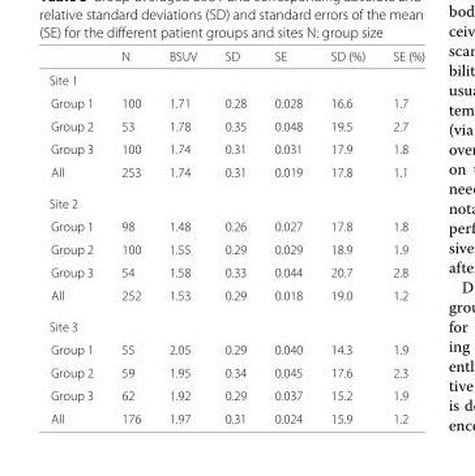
<table><thead><tr><td></td><td>N</td><td>BSUV</td><td>SD</td><td>SE</td><td>SD (%)</td><td>SE (%)</td></tr></thead><tbody><tr><td colspan="7">Site 1</td></tr><tr><td>Group 1</td><td>100</td><td>1.71</td><td>0.28</td><td>0.028</td><td>16.6</td><td>1.7</td></tr><tr><td>Group 2</td><td>53</td><td>1.78</td><td>0.35</td><td>0.048</td><td>19.5</td><td>2.7</td></tr><tr><td>Group 3</td><td>100</td><td>1.74</td><td>0.31</td><td>0.031</td><td>17.9</td><td>1.8</td></tr><tr><td>All</td><td>253</td><td>1.74</td><td>0.31</td><td>0.019</td><td>17.8</td><td>1.1</td></tr><tr><td colspan="7">Site 2</td></tr><tr><td>Group 1</td><td>98</td><td>1.48</td><td>0.26</td><td>0.027</td><td>17.8</td><td>1.8</td></tr><tr><td>Group 2</td><td>100</td><td>1.55</td><td>0.29</td><td>0.029</td><td>18.9</td><td>1.9</td></tr><tr><td>Group 3</td><td>54</td><td>1.58</td><td>0.33</td><td>0.044</td><td>20.7</td><td>2.8</td></tr><tr><td>All</td><td>252</td><td>1.53</td><td>0.29</td><td>0.018</td><td>19.0</td><td>1.2</td></tr><tr><td colspan="7">Site 3</td></tr><tr><td>Group 1</td><td>55</td><td>2.05</td><td>0.29</td><td>0.040</td><td>14.3</td><td>1.9</td></tr><tr><td>Group 2</td><td>59</td><td>1.95</td><td>0.34</td><td>0.045</td><td>17.6</td><td>2.3</td></tr><tr><td>Group 3</td><td>62</td><td>1.92</td><td>0.29</td><td>0.037</td><td>15.2</td><td>1.9</td></tr><tr><td>All</td><td>176</td><td>1.97</td><td>0.31</td><td>0.024</td><td>15.9</td><td>1.2</td></tr></tbody></table>